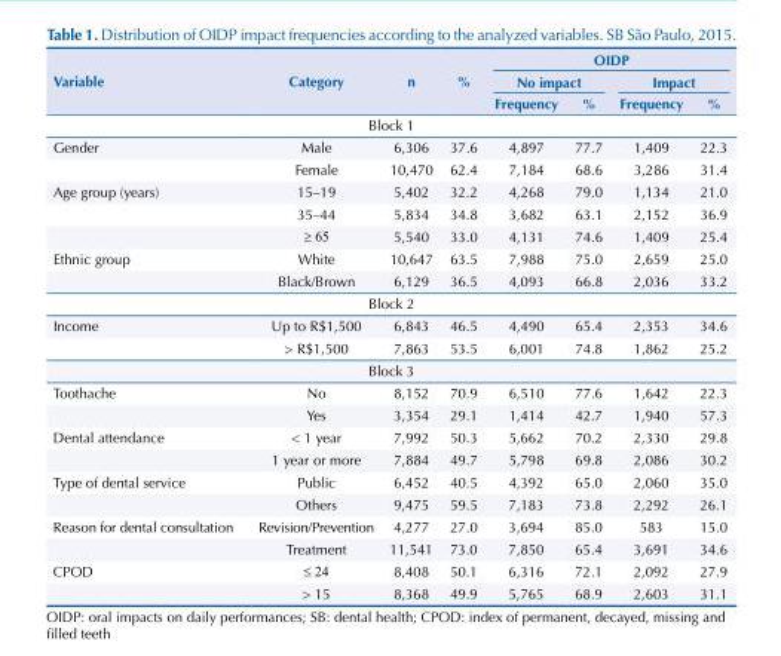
<table><thead><tr><td rowspan="3">Variable</td><td rowspan="3">Category</td><td rowspan="3">n</td><td rowspan="3">%</td><td colspan="4">OIDP</td></tr><tr><td colspan="2">No impact</td><td colspan="2">Impact</td></tr><tr><td>Frequency</td><td>%</td><td>Frequency</td><td>%</td></tr></thead><tbody><tr><td colspan="8">Block 1</td></tr><tr><td rowspan="2">Gender</td><td>Male</td><td>6,306</td><td>37.6</td><td>4,897</td><td>77.7</td><td>1,409</td><td>22.3</td></tr><tr><td>Female</td><td>10,470</td><td>62.4</td><td>7,184</td><td>68.6</td><td>3,286</td><td>31.4</td></tr><tr><td rowspan="3">Age group (years)</td><td>15–19</td><td>5,402</td><td>32.2</td><td>4,268</td><td>79.0</td><td>1,134</td><td>21.0</td></tr><tr><td>35–44</td><td>5,834</td><td>34.8</td><td>3,682</td><td>63.1</td><td>2,152</td><td>36.9</td></tr><tr><td>≥ 65</td><td>5,540</td><td>33.0</td><td>4,131</td><td>74.6</td><td>1,409</td><td>25.4</td></tr><tr><td rowspan="2">Ethnic group</td><td>White</td><td>10,647</td><td>63.5</td><td>7,988</td><td>75.0</td><td>2,659</td><td>25.0</td></tr><tr><td>Black/Brown</td><td>6,129</td><td>36.5</td><td>4,093</td><td>66.8</td><td>2,036</td><td>33.2</td></tr><tr><td colspan="8">Block 2</td></tr><tr><td rowspan="2">Income</td><td>Up to R$1,500</td><td>6,843</td><td>46.5</td><td>4,490</td><td>65.4</td><td>2,353</td><td>34.6</td></tr><tr><td>&gt; R$1,500</td><td>7,863</td><td>53.5</td><td>6,001</td><td>74.8</td><td>1,862</td><td>25.2</td></tr><tr><td colspan="8">Block 3</td></tr><tr><td rowspan="2">Toothache</td><td>No</td><td>8,152</td><td>70.9</td><td>6,510</td><td>77.6</td><td>1,642</td><td>22.3</td></tr><tr><td>Yes</td><td>3,354</td><td>29.1</td><td>1,414</td><td>42.7</td><td>1,940</td><td>57.3</td></tr><tr><td rowspan="2">Dental attendance</td><td>&lt; 1 year</td><td>7,992</td><td>50.3</td><td>5,662</td><td>70.2</td><td>2,330</td><td>29.8</td></tr><tr><td>1 year or more</td><td>7,884</td><td>49.7</td><td>5,798</td><td>69.8</td><td>2,086</td><td>30.2</td></tr><tr><td rowspan="2">Type of dental service</td><td>Public</td><td>6,452</td><td>40.5</td><td>4,392</td><td>65.0</td><td>2,060</td><td>35.0</td></tr><tr><td>Others</td><td>9,475</td><td>59.5</td><td>7,183</td><td>73.8</td><td>2,292</td><td>26.1</td></tr><tr><td rowspan="2">Reason for dental consultation</td><td>Revision/Prevention</td><td>4,277</td><td>27.0</td><td>3,694</td><td>85.0</td><td>583</td><td>15.0</td></tr><tr><td>Treatment</td><td>11,541</td><td>73.0</td><td>7,850</td><td>65.4</td><td>3,691</td><td>34.6</td></tr><tr><td rowspan="2">CPOD</td><td>≤ 24</td><td>8,408</td><td>50.1</td><td>6,316</td><td>72.1</td><td>2,092</td><td>27.9</td></tr><tr><td>&gt; 15</td><td>8,368</td><td>49.9</td><td>5,765</td><td>68.9</td><td>2,603</td><td>31.1</td></tr></tbody></table>